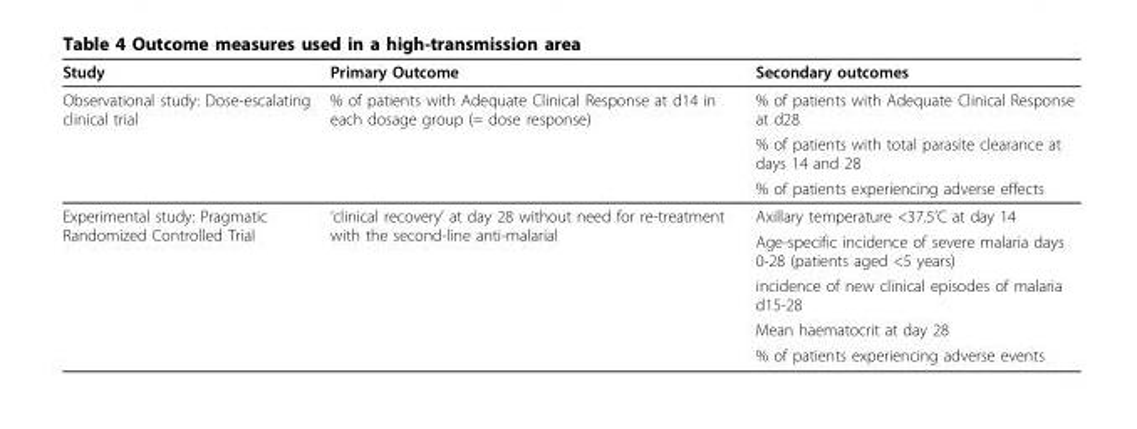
<table><thead><tr><td>Study</td><td>Primary Outcome</td><td>Secondary outcomes</td></tr></thead><tbody><tr><td rowspan="3">Observational study: Dose-escalating clinical trial</td><td rowspan="3">% of patients with Adequate Clinical Response at d14 in each dosage group (= dose response)</td><td>% of patients with Adequate Clinical Response at d28</td></tr><tr><td>% of patients with total parasite clearance at days 14 and 28</td></tr><tr><td>% of patients experiencing adverse effects</td></tr><tr><td rowspan="5">Experimental study: Pragmatic Randomized Controlled Trial</td><td rowspan="5">‘clinical recovery’ at day 28 without need for re-treatment with the second-line anti-malarial</td><td>Axillary temperature &lt;37.5’C at day 14</td></tr><tr><td>Age-specific incidence of severe malaria days 0-28 (patients aged &lt;5 years)</td></tr><tr><td>incidence of new clinical episodes of malaria d15-28</td></tr><tr><td>Mean haematocrit at day 28</td></tr><tr><td>% of patients experiencing adverse events</td></tr></tbody></table>